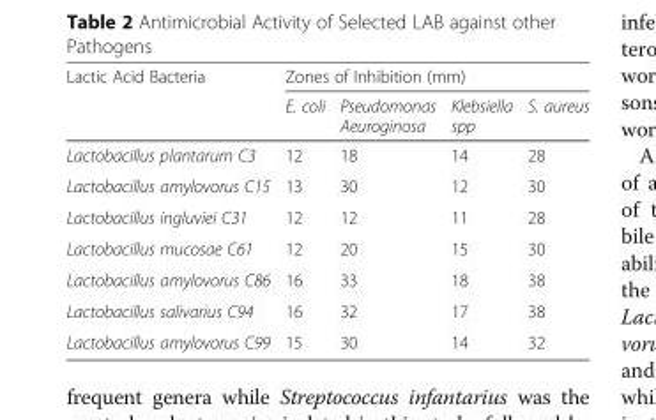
<table><thead><tr><td rowspan="2">Lactic Acid Bacteria</td><td colspan="4">Zones of Inhibition (mm)</td></tr><tr><td>E. coli</td><td>Pseudomonas Aeuroginosa</td><td>Klebsiella spp</td><td>S. aureus</td></tr></thead><tbody><tr><td>Lactobacillus plantarum C3</td><td>12</td><td>18</td><td>14</td><td>28</td></tr><tr><td>Lactobacillus amylovorus C15</td><td>13</td><td>30</td><td>12</td><td>30</td></tr><tr><td>Lactobacillus ingluviei C31</td><td>12</td><td>12</td><td>11</td><td>28</td></tr><tr><td>Lactobacillus mucosae C61</td><td>12</td><td>20</td><td>15</td><td>30</td></tr><tr><td>Lactobacillus amylovorus C86</td><td>16</td><td>33</td><td>18</td><td>38</td></tr><tr><td>Lactobacillus salivarius C94</td><td>16</td><td>32</td><td>17</td><td>38</td></tr><tr><td>Lactobacillus amylovorus C99</td><td>15</td><td>30</td><td>14</td><td>32</td></tr></tbody></table>